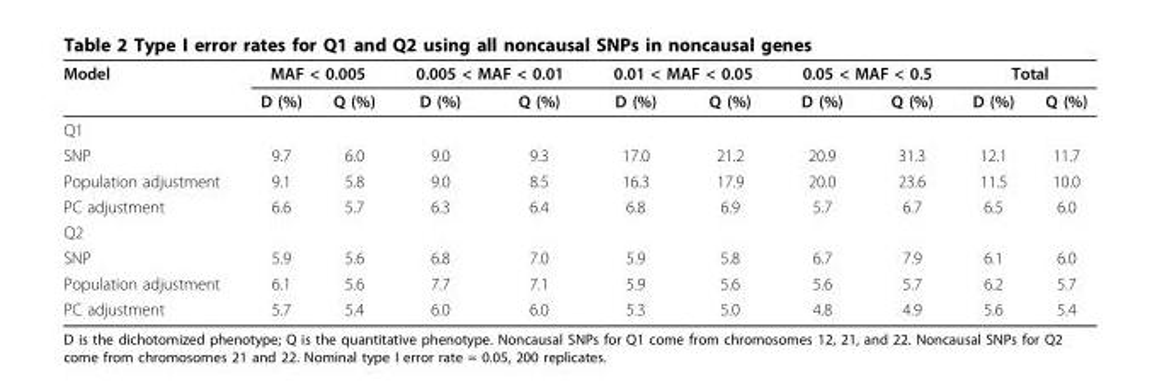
<table><thead><tr><td rowspan="2">Model</td><td colspan="2">MAF &lt; 0.005</td><td colspan="2">0.005 &lt; MAF &lt; 0.01</td><td colspan="2">0.01 &lt; MAF &lt; 0.05</td><td colspan="2">0.05 &lt; MAF &lt; 0.5</td><td colspan="2">Total</td></tr><tr><td>D (%)</td><td>Q (%)</td><td>D (%)</td><td>Q (%)</td><td>D (%)</td><td>Q (%)</td><td>D (%)</td><td>Q (%)</td><td>D (%)</td><td>Q (%)</td></tr></thead><tbody><tr><td colspan="11">Q1</td></tr><tr><td>SNP</td><td>9.7</td><td>6.0</td><td>9.0</td><td>9.3</td><td>17.0</td><td>21.2</td><td>20.9</td><td>31.3</td><td>12.1</td><td>11.7</td></tr><tr><td>Population adjustment</td><td>9.1</td><td>5.8</td><td>9.0</td><td>8.5</td><td>16.3</td><td>17.9</td><td>20.0</td><td>23.6</td><td>11.5</td><td>10.0</td></tr><tr><td>PC adjustment</td><td>6.6</td><td>5.7</td><td>6.3</td><td>6.4</td><td>6.8</td><td>6.9</td><td>5.7</td><td>6.7</td><td>6.5</td><td>6.0</td></tr><tr><td colspan="11">Q2</td></tr><tr><td>SNP</td><td>5.9</td><td>5.6</td><td>6.8</td><td>7.0</td><td>5.9</td><td>5.8</td><td>6.7</td><td>7.9</td><td>6.1</td><td>6.0</td></tr><tr><td>Population adjustment</td><td>6.1</td><td>5.6</td><td>7.7</td><td>7.1</td><td>5.9</td><td>5.6</td><td>5.6</td><td>5.7</td><td>6.2</td><td>5.7</td></tr><tr><td>PC adjustment</td><td>5.7</td><td>5.4</td><td>6.0</td><td>6.0</td><td>5.3</td><td>5.0</td><td>4.8</td><td>4.9</td><td>5.6</td><td>5.4</td></tr></tbody></table>